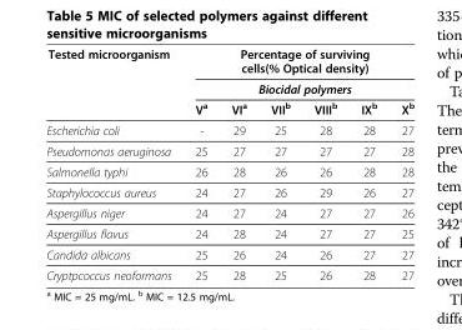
<table><thead><tr><td rowspan="3">Tested microorganism</td><td rowspan="2" colspan="6">Percentage of surviving cells(% Optical density) Biocidal polymers</td></tr><tr></tr><tr><td>V<sup>a</sup></td><td>VI<sup>a</sup></td><td>VII<sup>b</sup></td><td>VIII<sup>b</sup></td><td>IX<sup>b</sup></td><td>X<sup>b</sup></td></tr></thead><tbody><tr><td>Escherichia coli</td><td>-</td><td>29</td><td>25</td><td>28</td><td>28</td><td>27</td></tr><tr><td>Pseudomonas aeruginosa</td><td>25</td><td>27</td><td>27</td><td>27</td><td>27</td><td>28</td></tr><tr><td>Salmonella typhi</td><td>26</td><td>28</td><td>26</td><td>26</td><td>28</td><td>28</td></tr><tr><td>Staphylococcus aureus</td><td>24</td><td>27</td><td>26</td><td>29</td><td>26</td><td>27</td></tr><tr><td>Aspergillus niger</td><td>24</td><td>27</td><td>24</td><td>27</td><td>27</td><td>26</td></tr><tr><td>Aspergillus flavus</td><td>24</td><td>28</td><td>24</td><td>27</td><td>27</td><td>25</td></tr><tr><td>Candida albicans</td><td>25</td><td>26</td><td>24</td><td>26</td><td>27</td><td>27</td></tr><tr><td>Cryptpcoccus neoformans</td><td>25</td><td>28</td><td>25</td><td>26</td><td>28</td><td>27</td></tr></tbody></table>